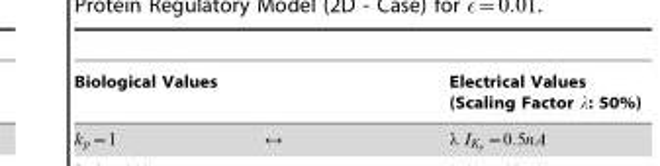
<table><thead><tr><td>Biological Values</td><td>Electrical Values</td></tr></thead><tbody></tbody></table>